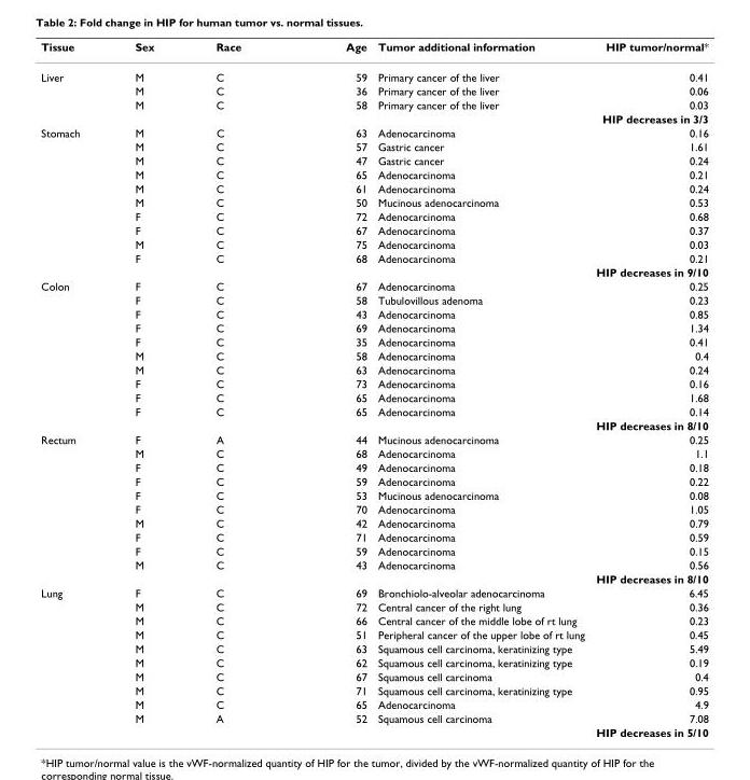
<table><thead><tr><td>Tissue</td><td>Sex</td><td>Race</td><td>Age</td><td>Tumor additional information</td><td>HIP tumor/normal*</td></tr></thead><tbody><tr><td rowspan="4">Liver</td><td>M</td><td>C</td><td>59</td><td>Primary cancer of the liver</td><td>0.41</td></tr><tr><td>M</td><td>C</td><td>36</td><td>Primary cancer of the liver</td><td>0.06</td></tr><tr><td>M</td><td>C</td><td>58</td><td>Primary cancer of the liver</td><td>0.03</td></tr><tr><td></td><td></td><td></td><td></td><td>HIP decreases in 3/3</td></tr><tr><td rowspan="11">Stomach</td><td>M</td><td>C</td><td>63</td><td>Adenocarcinoma</td><td>0.16</td></tr><tr><td>M</td><td>C</td><td>57</td><td>Gastric cancer</td><td>1.61</td></tr><tr><td>M</td><td>C</td><td>47</td><td>Gastric cancer</td><td>0.24</td></tr><tr><td>M</td><td>C</td><td>65</td><td>Adenocarcinoma</td><td>0.21</td></tr><tr><td>M</td><td>C</td><td>61</td><td>Adenocarcinoma</td><td>0.24</td></tr><tr><td>M</td><td>C</td><td>50</td><td>Mucinous adenocarcinoma</td><td>0.53</td></tr><tr><td>F</td><td>C</td><td>72</td><td>Adenocarcinoma</td><td>0.68</td></tr><tr><td>F</td><td>C</td><td>67</td><td>Adenocarcinoma</td><td>0.37</td></tr><tr><td>M</td><td>C</td><td>75</td><td>Adenocarcinoma</td><td>0.03</td></tr><tr><td>F</td><td>C</td><td>68</td><td>Adenocarcinoma</td><td>0.21</td></tr><tr><td></td><td></td><td></td><td></td><td>HIP decreases in 9/10</td></tr><tr><td rowspan="11">Colon</td><td>F</td><td>C</td><td>67</td><td>Adenocarcinoma</td><td>0.25</td></tr><tr><td>F</td><td>C</td><td>58</td><td>Tubulovillous adenoma</td><td>0.23</td></tr><tr><td>F</td><td>C</td><td>43</td><td>Adenocarcinoma</td><td>0.85</td></tr><tr><td>F</td><td>C</td><td>69</td><td>Adenocarcinoma</td><td>1.34</td></tr><tr><td>F</td><td>C</td><td>35</td><td>Adenocarcinoma</td><td>0.41</td></tr><tr><td>M</td><td>C</td><td>58</td><td>Adenocarcinoma</td><td>0.4</td></tr><tr><td>M</td><td>C</td><td>63</td><td>Adenocarcinoma</td><td>0.24</td></tr><tr><td>F</td><td>C</td><td>73</td><td>Adenocarcinoma</td><td>0.16</td></tr><tr><td>F</td><td>C</td><td>65</td><td>Adenocarcinoma</td><td>1.68</td></tr><tr><td>F</td><td>C</td><td>65</td><td>Adenocarcinoma</td><td>0.14</td></tr><tr><td></td><td></td><td></td><td></td><td>HIP decreases in 8/10</td></tr><tr><td rowspan="11">Rectum</td><td>F</td><td>A</td><td>44</td><td>Mucinous adenocarcinoma</td><td>0.25</td></tr><tr><td>M</td><td>C</td><td>68</td><td>Adenocarcinoma</td><td>1.1</td></tr><tr><td>F</td><td>C</td><td>49</td><td>Adenocarcinoma</td><td>0.18</td></tr><tr><td>F</td><td>C</td><td>59</td><td>Adenocarcinoma</td><td>0.22</td></tr><tr><td>F</td><td>C</td><td>53</td><td>Mucinous adenocarcinoma</td><td>0.08</td></tr><tr><td>F</td><td>C</td><td>70</td><td>Adenocarcinoma</td><td>1.05</td></tr><tr><td>M</td><td>C</td><td>42</td><td>Adenocarcinoma</td><td>0.79</td></tr><tr><td>F</td><td>C</td><td>71</td><td>Adenocarcinoma</td><td>0.59</td></tr><tr><td>F</td><td>C</td><td>59</td><td>Adenocarcinoma</td><td>0.15</td></tr><tr><td>M</td><td>C</td><td>43</td><td>Adenocarcinoma</td><td>0.56</td></tr><tr><td></td><td></td><td></td><td></td><td>HIP decreases in 8/10</td></tr><tr><td rowspan="11">Lung</td><td>F</td><td>C</td><td>69</td><td>Bronchiolo-alveolar adenocarcinoma</td><td>6.45</td></tr><tr><td>M</td><td>C</td><td>72</td><td>Central cancer of the right lung</td><td>0.36</td></tr><tr><td>M</td><td>C</td><td>66</td><td>Central cancer of the middle lobe of rt lung</td><td>0.23</td></tr><tr><td>M</td><td>C</td><td>51</td><td>Peripheral cancer of the upper lobe of rt lung</td><td>0.45</td></tr><tr><td>M</td><td>C</td><td>63</td><td>Squamous cell carcinoma, keratinizing type</td><td>5.49</td></tr><tr><td>M</td><td>C</td><td>62</td><td>Squamous cell carcinoma, keratinizing type</td><td>0.19</td></tr><tr><td>M</td><td>C</td><td>67</td><td>Squamous cell carcinoma</td><td>0.4</td></tr><tr><td>M</td><td>C</td><td>71</td><td>Squamous cell carcinoma, keratinizing type</td><td>0.95</td></tr><tr><td>M</td><td>C</td><td>65</td><td>Adenocarcinoma</td><td>4.9</td></tr><tr><td>M</td><td>A</td><td>52</td><td>Squamous cell carcinoma</td><td>7.08</td></tr><tr><td></td><td></td><td></td><td></td><td>HIP decreases in 5/10</td></tr></tbody></table>